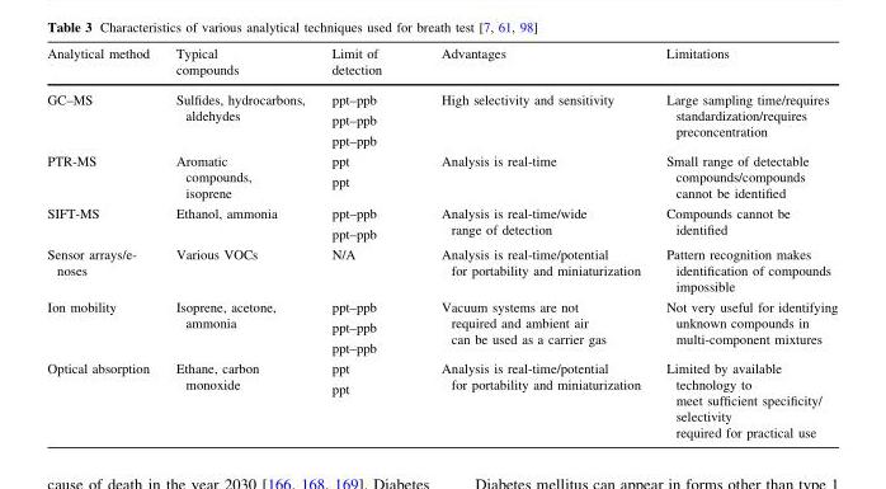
<table><thead><tr><td>Analytical method</td><td>Typical compounds</td><td>Limit of detection</td><td>Advantages</td><td>Limitations</td></tr></thead><tbody><tr><td>GC–MS</td><td>Sulfides, hydrocarbons, aldehydes</td><td>ppt–ppb ppt–ppb ppt–ppb</td><td>High selectivity and sensitivity</td><td>Large sampling time/requires standardization/requires preconcentration</td></tr><tr><td>PTR-MS</td><td>Aromatic compounds, isoprene</td><td>ppt ppt</td><td>Analysis is real-time</td><td>Small range of detectable compounds/compounds cannot be identified</td></tr><tr><td>SIFT-MS</td><td>Ethanol, ammonia</td><td>ppt–ppb ppt–ppb</td><td>Analysis is real-time/wide range of detection</td><td>Compounds cannot be identified</td></tr><tr><td>Sensor arrays/e- noses</td><td>Various VOCs</td><td>N/A</td><td>Analysis is real-time/potential for portability and miniaturization</td><td>Pattern recognition makes identification of compounds impossible</td></tr><tr><td>Ion mobility</td><td>Isoprene, acetone, ammonia</td><td>ppt–ppb ppt–ppb ppt–ppb</td><td>Vacuum systems are not required and ambient air can be used as a carrier gas</td><td>Not very useful for identifying unknown compounds in multi-component mixtures</td></tr><tr><td>Optical absorption</td><td>Ethane, carbon monoxide</td><td>ppt ppt</td><td>Analysis is real-time/potential for portability and miniaturization</td><td>Limited by available technology to meet sufficient specificity/ selectivity required for practical use</td></tr></tbody></table>